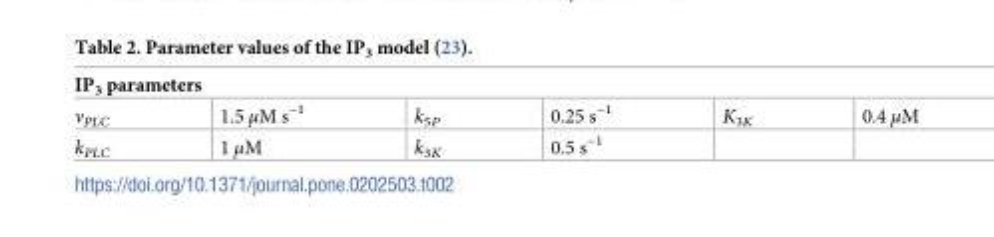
<table><thead><tr><td colspan="6">IP<sub>3</sub> parameters</td></tr><tr><td>v<sub>PLC</sub></td><td>1.5 μM s<sup>−1</sup></td><td>k<sub>5P</sub></td><td>0.25 s<sup>−1</sup></td><td>K<sub>3K</sub></td><td>0.4 μM</td></tr></thead><tbody><tr><td>k<sub>PLC</sub></td><td>1 μM</td><td>k<sub>3K</sub></td><td>0.5 s<sup>−1</sup></td><td></td><td></td></tr></tbody></table>